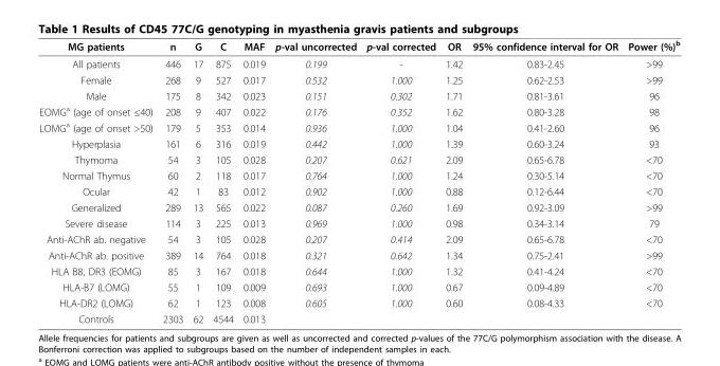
<table><thead><tr><td>MG patients</td><td>n</td><td>G</td><td>C</td><td>MAF</td><td>p-val uncorrected</td><td>p-val corrected</td><td>OR</td><td>95% confidence interval for OR</td><td>Power (%)<sup>b</sup></td></tr></thead><tbody><tr><td>All patients</td><td>446</td><td>17</td><td>875</td><td>0.019</td><td>0.199</td><td>-</td><td>1.42</td><td>0.83-2.45</td><td>&gt;99</td></tr><tr><td>Female</td><td>268</td><td>9</td><td>527</td><td>0.017</td><td>0.532</td><td>1.000</td><td>1.25</td><td>0.62-2.53</td><td>&gt;99</td></tr><tr><td>Male</td><td>175</td><td>8</td><td>342</td><td>0.023</td><td>0.151</td><td>0.302</td><td>1.71</td><td>0.81-3.61</td><td>96</td></tr><tr><td>EOMG<sup>a</sup> (age of onset ≤40)</td><td>208</td><td>9</td><td>407</td><td>0.022</td><td>0.176</td><td>0.352</td><td>1.62</td><td>0.80-3.28</td><td>98</td></tr><tr><td>LOMG<sup>a</sup> (age of onset &gt;50)</td><td>179</td><td>5</td><td>353</td><td>0.014</td><td>0.936</td><td>1.000</td><td>1.04</td><td>0.41-2.60</td><td>96</td></tr><tr><td>Hyperplasia</td><td>161</td><td>6</td><td>316</td><td>0.019</td><td>0.442</td><td>1.000</td><td>1.39</td><td>0.60-3.24</td><td>93</td></tr><tr><td>Thymoma</td><td>54</td><td>3</td><td>105</td><td>0.028</td><td>0.207</td><td>0.621</td><td>2.09</td><td>0.65-6.78</td><td>&lt;70</td></tr><tr><td>Normal Thymus</td><td>60</td><td>2</td><td>118</td><td>0.017</td><td>0.764</td><td>1.000</td><td>1.24</td><td>0.30-5.14</td><td>&lt;70</td></tr><tr><td>Ocular</td><td>42</td><td>1</td><td>83</td><td>0.012</td><td>0.902</td><td>1.000</td><td>0.88</td><td>0.12-6.44</td><td>&lt;70</td></tr><tr><td>Generalized</td><td>289</td><td>13</td><td>565</td><td>0.022</td><td>0.087</td><td>0.260</td><td>1.69</td><td>0.92-3.09</td><td>&gt;99</td></tr><tr><td>Severe disease</td><td>114</td><td>3</td><td>225</td><td>0.013</td><td>0.969</td><td>1.000</td><td>0.98</td><td>0.34-3.14</td><td>79</td></tr><tr><td>Anti-AChR ab. negative</td><td>54</td><td>3</td><td>105</td><td>0.028</td><td>0.207</td><td>0.414</td><td>2.09</td><td>0.65-6.78</td><td>&lt;70</td></tr><tr><td>Anti-AChR ab. positive</td><td>389</td><td>14</td><td>764</td><td>0.018</td><td>0.321</td><td>0.642</td><td>1.34</td><td>0.75-2.41</td><td>&gt;99</td></tr><tr><td>HLA B8, DR3 (EOMG)</td><td>85</td><td>3</td><td>167</td><td>0.018</td><td>0.644</td><td>1.000</td><td>1.32</td><td>0.41-4.24</td><td>&lt;70</td></tr><tr><td>HLA-B7 (LOMG)</td><td>55</td><td>1</td><td>109</td><td>0.009</td><td>0.693</td><td>1.000</td><td>0.67</td><td>0.09-4.89</td><td>&lt;70</td></tr><tr><td>HLA-DR2 (LOMG)</td><td>62</td><td>1</td><td>123</td><td>0.008</td><td>0.605</td><td>1.000</td><td>0.60</td><td>0.08-4.33</td><td>&lt;70</td></tr><tr><td>Controls</td><td>2303</td><td>62</td><td>4544</td><td>0.013</td><td></td><td></td><td></td><td></td><td></td></tr></tbody></table>